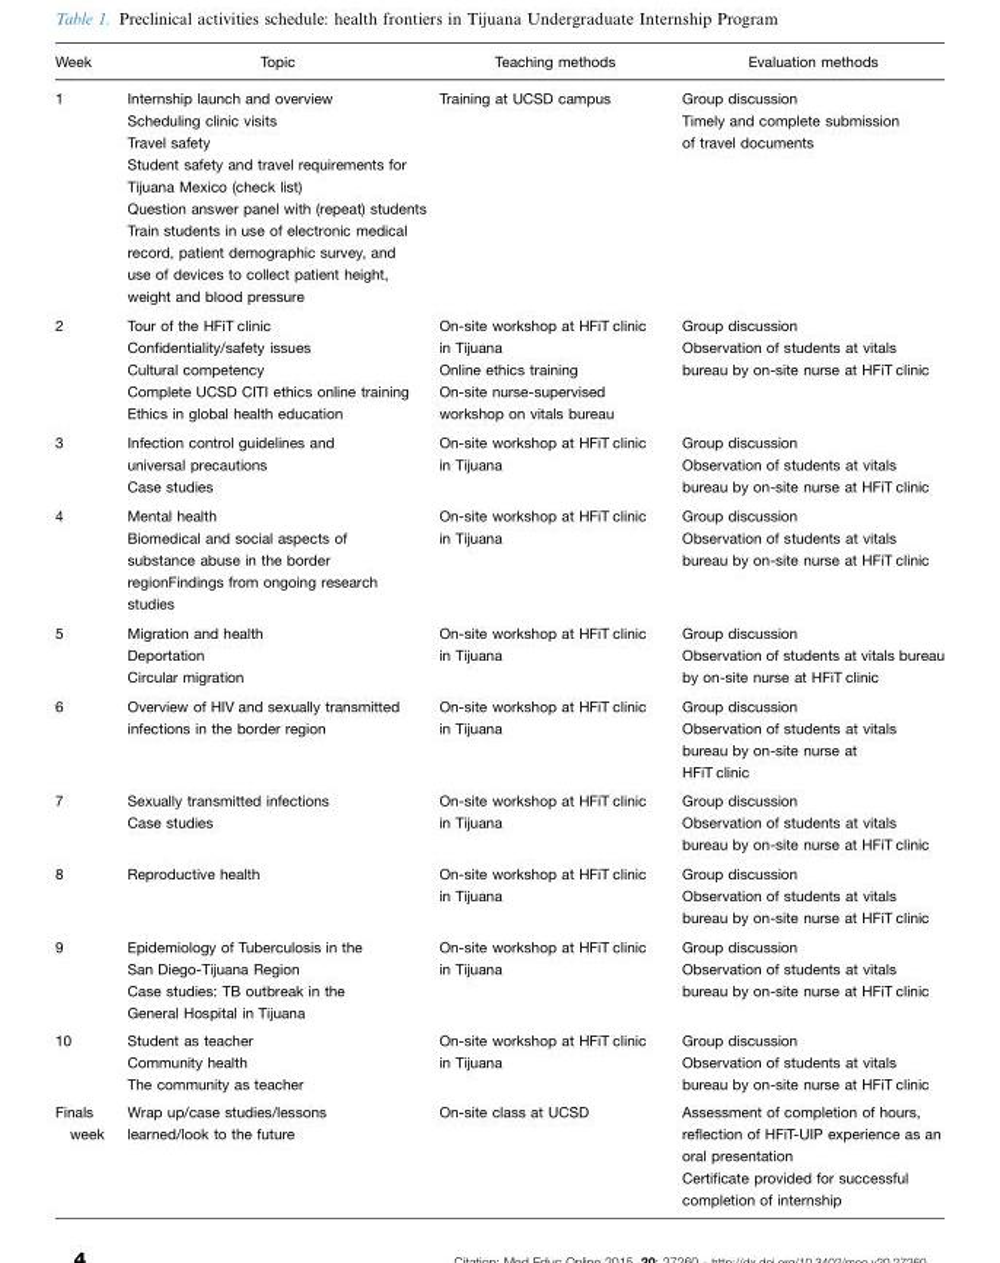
<table><thead><tr><td>Week</td><td>Topic</td><td>Teaching methods</td><td>Evaluation methods</td></tr></thead><tbody><tr><td>1</td><td>Internship launch and overview Scheduling clinic visits Travel safety Student safety and travel requirements for Tijuana Mexico (check list) Question answer panel with (repeat) students Train students in use of electronic medical record, patient demographic survey, and use of devices to collect patient height, weight and blood pressure</td><td>Training at UCSD campus</td><td>Group discussion Timely and complete submission of travel documents</td></tr><tr><td>2</td><td>Tour of the HFiT clinic Confidentiality/safety issues Cultural competency Complete UCSD CITI ethics online training Ethics in global health education</td><td>On-site workshop at HFiT clinic in Tijuana Online ethics training On-site nurse-supervised workshop on vitals bureau</td><td>Group discussion Observation of students at vitals bureau by on-site nurse at HFiT clinic</td></tr><tr><td>3</td><td>Infection control guidelines and universal precautions Case studies</td><td>On-site workshop at HFiT clinic in Tijuana</td><td>Group discussion Observation of students at vitals bureau by on-site nurse at HFiT clinic</td></tr><tr><td>4</td><td>Mental health Biomedical and social aspects of substance abuse in the border regionFindings from ongoing research studies</td><td>On-site workshop at HFiT clinic in Tijuana</td><td>Group discussion Observation of students at vitals bureau by on-site nurse at HFiT clinic</td></tr><tr><td>5</td><td>Migration and health Deportation Circular migration</td><td>On-site workshop at HFiT clinic in Tijuana</td><td>Group discussion Observation of students at vitals bureau by on-site nurse at HFiT clinic</td></tr><tr><td>6</td><td>Overview of HIV and sexually transmitted infections in the border region</td><td>On-site workshop at HFiT clinic in Tijuana</td><td>Group discussion Observation of students at vitals bureau by on-site nurse at HFiT clinic</td></tr><tr><td>7</td><td>Sexually transmitted infections Case studies</td><td>On-site workshop at HFiT clinic in Tijuana</td><td>Group discussion Observation of students at vitals bureau by on-site nurse at HFiT clinic</td></tr><tr><td>8</td><td>Reproductive health</td><td>On-site workshop at HFiT clinic in Tijuana</td><td>Group discussion Observation of students at vitals bureau by on-site nurse at HFiT clinic</td></tr><tr><td>9</td><td>Epidemiology of Tuberculosis in the San Diego-Tijuana Region Case studies: TB outbreak in the General Hospital in Tijuana</td><td>On-site workshop at HFiT clinic in Tijuana</td><td>Group discussion Observation of students at vitals bureau by on-site nurse at HFiT clinic</td></tr><tr><td>10</td><td>Student as teacher Community health The community as teacher</td><td>On-site workshop at HFiT clinic in Tijuana</td><td>Group discussion Observation of students at vitals bureau by on-site nurse at HFiT clinic</td></tr><tr><td>Finals week</td><td>Wrap up/case studies/lessons learned/look to the future</td><td>On-site class at UCSD</td><td>Assessment of completion of hours, reflection of HFiT-UIP experience as an oral presentation Certificate provided for successful completion of internship</td></tr></tbody></table>